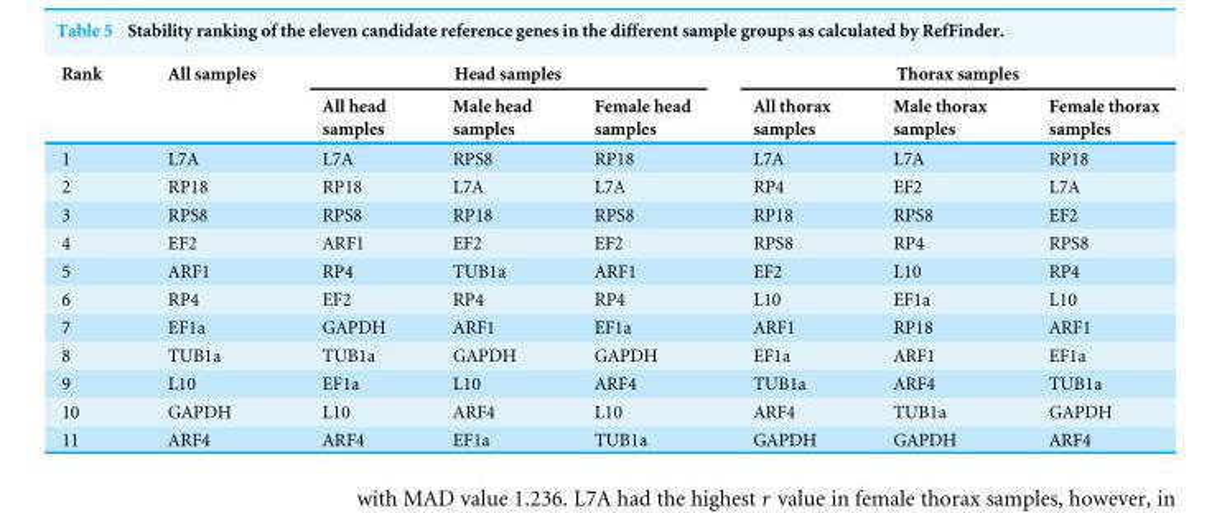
<table><thead><tr><td rowspan="2">Rank</td><td rowspan="2">All samples</td><td colspan="3">Head samples</td><td colspan="3">Thorax samples</td></tr><tr><td>All head samples</td><td>Male head samples</td><td>Female head samples</td><td>All thorax samples</td><td>Male thorax samples</td><td>Female thorax samples</td></tr></thead><tbody><tr><td>1</td><td>L7A</td><td>L7A</td><td>RPS8</td><td>RP18</td><td>L7A</td><td>L7A</td><td>RP18</td></tr><tr><td>2</td><td>RP18</td><td>RP18</td><td>L7A</td><td>L7A</td><td>RP4</td><td>EF2</td><td>L7A</td></tr><tr><td>3</td><td>RPS8</td><td>RPS8</td><td>RP18</td><td>RPS8</td><td>RP18</td><td>RPS8</td><td>EF2</td></tr><tr><td>4</td><td>EF2</td><td>ARF1</td><td>EF2</td><td>EF2</td><td>RPS8</td><td>RP4</td><td>RPS8</td></tr><tr><td>5</td><td>ARF1</td><td>RP4</td><td>TUB1a</td><td>ARF1</td><td>EF2</td><td>L10</td><td>RP4</td></tr><tr><td>6</td><td>RP4</td><td>EF2</td><td>RP4</td><td>RP4</td><td>L10</td><td>EF1a</td><td>L10</td></tr><tr><td>7</td><td>EF1a</td><td>GAPDH</td><td>ARF1</td><td>EF1a</td><td>ARF1</td><td>RP18</td><td>ARF1</td></tr><tr><td>8</td><td>TUB1a</td><td>TUB1a</td><td>GAPDH</td><td>GAPDH</td><td>EF1a</td><td>ARF1</td><td>EF1a</td></tr><tr><td>9</td><td>L10</td><td>EF1a</td><td>L10</td><td>ARF4</td><td>TUB1a</td><td>ARF4</td><td>TUB1a</td></tr><tr><td>10</td><td>GAPDH</td><td>L10</td><td>ARF4</td><td>L10</td><td>ARF4</td><td>TUB1a</td><td>GAPDH</td></tr><tr><td>11</td><td>ARF4</td><td>ARF4</td><td>EF1a</td><td>TUB1a</td><td>GAPDH</td><td>GAPDH</td><td>ARF4</td></tr></tbody></table>